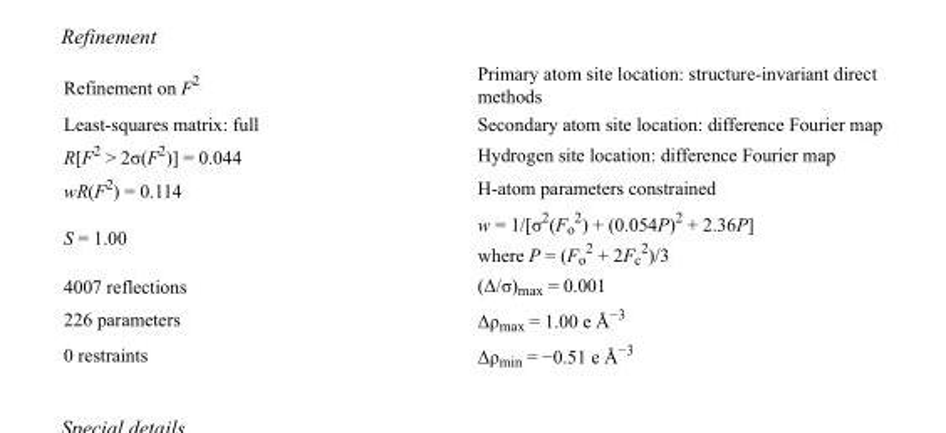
<table><tbody><tr><td>Refinement on F<sup>2</sup></td><td>Primary atom site location: structure-invariant direct methods</td></tr><tr><td>Least-squares matrix: full</td><td>Secondary atom site location: difference Fourier map</td></tr><tr><td>R[F<sup>2</sup> &gt; 2σ(F<sup>2</sup>)] = 0.044</td><td>Hydrogen site location: difference Fourier map</td></tr><tr><td>wR(F<sup>2</sup>) = 0.114</td><td>H-atom parameters constrained</td></tr><tr><td>S = 1.00</td><td>w = 1/[σ<sup>2</sup>(F<sub>o</sub> <sup>2</sup>) + (0.054P)<sup>2</sup> + 2.36P] where P = (F<sub>o</sub> <sup>2</sup> + 2F<sub>c</sub> <sup>2</sup>)/3</td></tr><tr><td>4007 reflections</td><td>(Δ/σ)<sub>max</sub> = 0.001</td></tr><tr><td>226 parameters</td><td>Δρ<sub>max</sub> = 1.00 e Å<sup>−3</sup></td></tr><tr><td>0 restraints</td><td>Δρ<sub>min</sub> = −0.51 e Å<sup>−3</sup></td></tr></tbody></table>